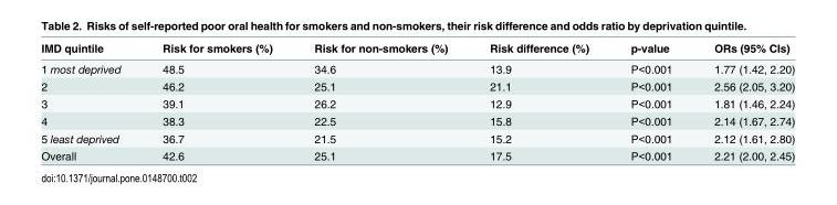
<table><thead><tr><td>IMD quintile</td><td>Risk for smokers (%)</td><td>Risk for non-smokers (%)</td><td>Risk difference (%)</td><td>p-value</td><td>ORs (95% CIs)</td></tr></thead><tbody><tr><td>1 most deprived</td><td>48.5</td><td>34.6</td><td>13.9</td><td>P&lt;0.001</td><td>1.77 (1.42, 2.20)</td></tr><tr><td>2</td><td>46.2</td><td>25.1</td><td>21.1</td><td>P&lt;0.001</td><td>2.56 (2.05, 3.20)</td></tr><tr><td>3</td><td>39.1</td><td>26.2</td><td>12.9</td><td>P&lt;0.001</td><td>1.81 (1.46, 2.24)</td></tr><tr><td>4</td><td>38.3</td><td>22.5</td><td>15.8</td><td>P&lt;0.001</td><td>2.14 (1.67, 2.74)</td></tr><tr><td>5 least deprived</td><td>36.7</td><td>21.5</td><td>15.2</td><td>P&lt;0.001</td><td>2.12 (1.61, 2.80)</td></tr><tr><td>Overall</td><td>42.6</td><td>25.1</td><td>17.5</td><td>P&lt;0.001</td><td>2.21 (2.00, 2.45)</td></tr></tbody></table>